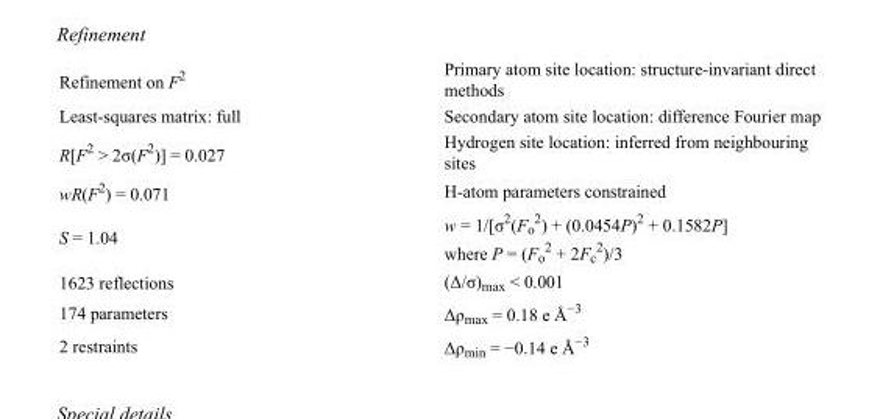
<table><tbody><tr><td>Refinement on F<sup>2</sup></td><td>Primary atom site location: structure-invariant direct methods</td></tr><tr><td>Least-squares matrix: full</td><td>Secondary atom site location: difference Fourier map</td></tr><tr><td>R[F<sup>2</sup> &gt; 2σ(F<sup>2</sup>)] = 0.027</td><td>Hydrogen site location: inferred from neighbouring sites</td></tr><tr><td>wR(F<sup>2</sup>) = 0.071</td><td>H-atom parameters constrained</td></tr><tr><td>S = 1.04</td><td>w = 1/[σ<sup>2</sup>(F<sub>o</sub> <sup>2</sup>) + (0.0454P)<sup>2</sup> + 0.1582P] where P = (F<sub>o</sub> <sup>2</sup> + 2F<sub>c</sub> <sup>2</sup>)/3</td></tr><tr><td>1623 reflections</td><td>(Δ/σ)<sub>max</sub> &lt; 0.001</td></tr><tr><td>174 parameters</td><td>Δρ<sub>max</sub> = 0.18 e Å<sup>−3</sup></td></tr><tr><td>2 restraints</td><td>Δρ<sub>min</sub> = −0.14 e Å<sup>−3</sup></td></tr></tbody></table>